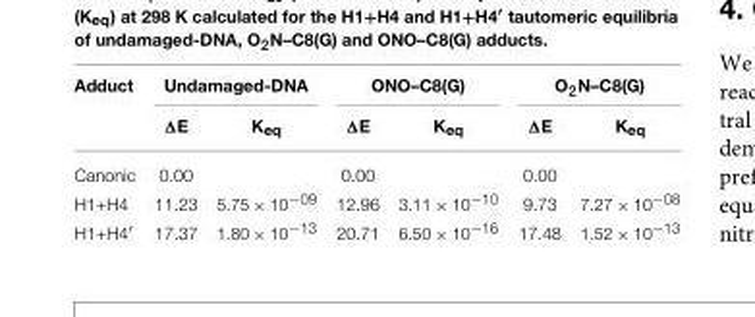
<table><thead><tr><td rowspan="2">Adduct</td><td colspan="2">Undamaged-DNA</td><td colspan="2">ONO–C8(G)</td><td colspan="2">O<sub>2</sub>N–C8(G)</td></tr><tr><td>ΔE</td><td>K<sub>eq</sub></td><td>ΔE</td><td>K<sub>eq</sub></td><td>ΔE</td><td>K<sub>eq</sub></td></tr></thead><tbody><tr><td>Canonic</td><td>0.00</td><td></td><td>0.00</td><td></td><td>0.00</td><td></td></tr><tr><td>H1+H4</td><td>11.23</td><td>5.75 × 10<sup>−09</sup></td><td>12.96</td><td>3.11 × 10<sup>−10</sup></td><td>9.73</td><td>7.27 × 10<sup>−08</sup></td></tr><tr><td>H1+H4′</td><td>17.37</td><td>1.80 × 10<sup>−13</sup></td><td>20.71</td><td>6.50 × 10<sup>−16</sup></td><td>17.48</td><td>1.52 × 10<sup>−13</sup></td></tr></tbody></table>